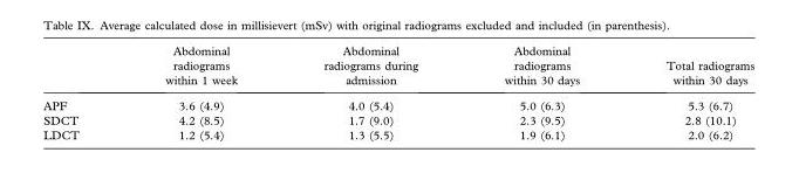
<table><thead><tr><td></td><td>Abdominal radiograms within 1 week</td><td>Abdominal radiograms during admission</td><td>Abdominal radiograms within 30 days</td><td>Total radiograms within 30 days</td></tr></thead><tbody><tr><td>APF</td><td>3.6 (4.9)</td><td>4.0 (5.4)</td><td>5.0 (6.3)</td><td>5.3 (6.7)</td></tr><tr><td>SDCT</td><td>4.2 (8.5)</td><td>1.7 (9.0)</td><td>2.3 (9.5)</td><td>2.8 (10.1)</td></tr><tr><td>LDCT</td><td>1.2 (5.4)</td><td>1.3 (5.5)</td><td>1.9 (6.1)</td><td>2.0 (6.2)</td></tr></tbody></table>